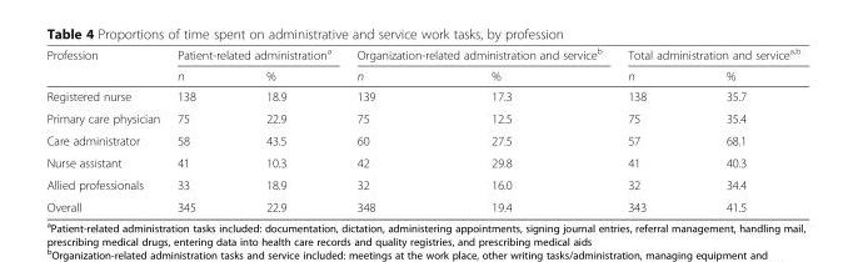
<table><thead><tr><td rowspan="2">Profession</td><td colspan="2">Patient-related administration<sup>a</sup></td><td colspan="2">Organization-related administration and service<sup>b</sup></td><td colspan="2">Total administration and service<sup>a,b</sup></td></tr><tr><td>n</td><td>%</td><td>n</td><td>%</td><td>n</td><td>%</td></tr></thead><tbody><tr><td>Registered nurse</td><td>138</td><td>18.9</td><td>139</td><td>17.3</td><td>138</td><td>35.7</td></tr><tr><td>Primary care physician</td><td>75</td><td>22.9</td><td>75</td><td>12.5</td><td>75</td><td>35.4</td></tr><tr><td>Care administrator</td><td>58</td><td>43.5</td><td>60</td><td>27.5</td><td>57</td><td>68.1</td></tr><tr><td>Nurse assistant</td><td>41</td><td>10.3</td><td>42</td><td>29.8</td><td>41</td><td>40.3</td></tr><tr><td>Allied professionals</td><td>33</td><td>18.9</td><td>32</td><td>16.0</td><td>32</td><td>34.4</td></tr><tr><td>Overall</td><td>345</td><td>22.9</td><td>348</td><td>19.4</td><td>343</td><td>41.5</td></tr></tbody></table>